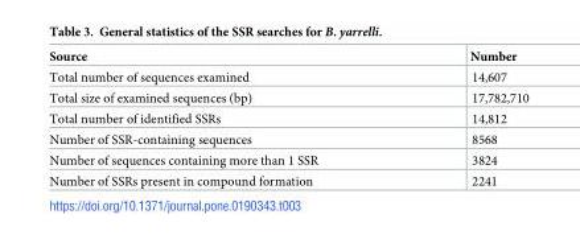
<table><thead><tr><td>Source</td><td>Number</td></tr></thead><tbody><tr><td>Total number of sequences examined</td><td>14,607</td></tr><tr><td>Total size of examined sequences (bp)</td><td>17,782,710</td></tr><tr><td>Total number of identified SSRs</td><td>14,812</td></tr><tr><td>Number of SSR-containing sequences</td><td>8568</td></tr><tr><td>Number of sequences containing more than 1 SSR</td><td>3824</td></tr><tr><td>Number of SSRs present in compound formation</td><td>2241</td></tr></tbody></table>